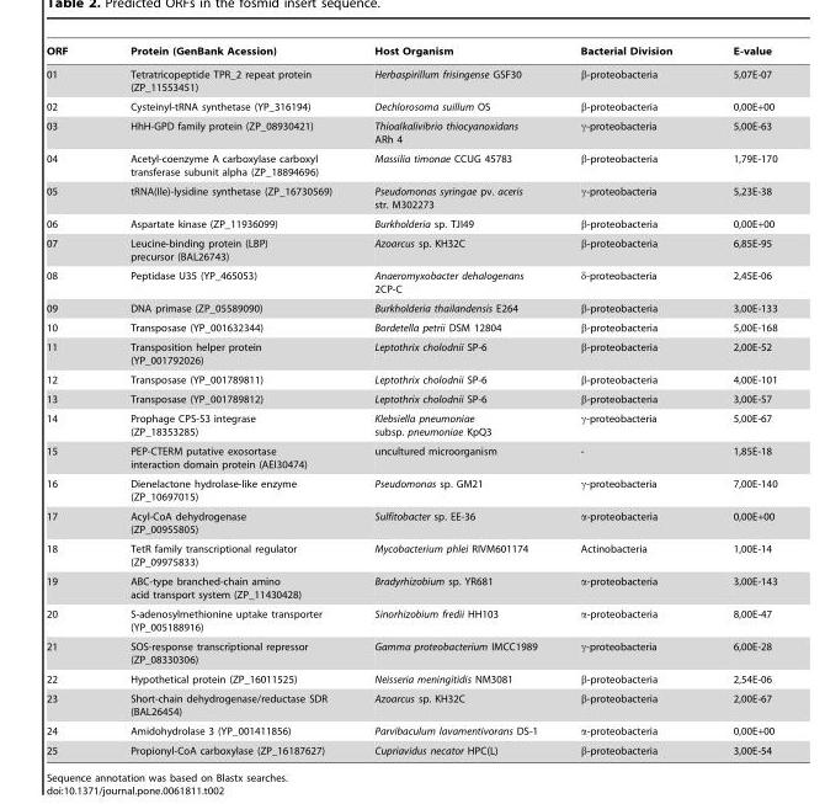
<table><thead><tr><td>ORF</td><td>Protein (GenBank Acession)</td><td>Host Organism</td><td>Bacterial Division</td><td>E-value</td></tr></thead><tbody><tr><td>01</td><td>Tetratricopeptide TPR_2 repeat protein (ZP_11553451)</td><td>Herbaspirillum frisingense GSF30</td><td>β-proteobacteria</td><td>5,07E-07</td></tr><tr><td>02</td><td>Cysteinyl-tRNA synthetase (YP_316194)</td><td>Dechlorosoma suillum OS</td><td>β-proteobacteria</td><td>0,00E+00</td></tr><tr><td>03</td><td>HhH-GPD family protein (ZP_08930421)</td><td>Thioalkalivibrio thiocyanoxidans ARh 4</td><td>γ-proteobacteria</td><td>5,00E-63</td></tr><tr><td>04</td><td>Acetyl-coenzyme A carboxylase carboxyl transferase subunit alpha (ZP_18894696)</td><td>Massilia timonae CCUG 45783</td><td>β-proteobacteria</td><td>1,79E-170</td></tr><tr><td>05</td><td>tRNA(Ile)-lysidine synthetase (ZP_16730569)</td><td>Pseudomonas syringae pv. aceris str. M302273</td><td>γ-proteobacteria</td><td>5,23E-38</td></tr><tr><td>06</td><td>Aspartate kinase (ZP_11936099)</td><td>Burkholderia sp. TJI49</td><td>β-proteobacteria</td><td>0,00E+00</td></tr><tr><td>07</td><td>Leucine-binding protein (LBP) precursor (BAL26743)</td><td>Azoarcus sp. KH32C</td><td>β-proteobacteria</td><td>6,85E-95</td></tr><tr><td>08</td><td>Peptidase U35 (YP_465053)</td><td>Anaeromyxobacter dehalogenans 2CP-C</td><td>δ-proteobacteria</td><td>2,45E-06</td></tr><tr><td>09</td><td>DNA primase (ZP_05589090)</td><td>Burkholderia thailandensis E264</td><td>β-proteobacteria</td><td>3,00E-133</td></tr><tr><td>10</td><td>Transposase (YP_001632344)</td><td>Bordetella petrii DSM 12804</td><td>β-proteobacteria</td><td>5,00E-168</td></tr><tr><td>11</td><td>Transposition helper protein (YP_001792026)</td><td>Leptothrix cholodnii SP-6</td><td>β-proteobacteria</td><td>2,00E-52</td></tr><tr><td>12</td><td>Transposase (YP_001789811)</td><td>Leptothrix cholodnii SP-6</td><td>β-proteobacteria</td><td>4,00E-101</td></tr><tr><td>13</td><td>Transposase (YP_001789812)</td><td>Leptothrix cholodnii SP-6</td><td>β-proteobacteria</td><td>3,00E-57</td></tr><tr><td>14</td><td>Prophage CPS-53 integrase (ZP_18353285)</td><td>Klebsiella pneumoniae subsp. pneumoniae KpQ3</td><td>γ-proteobacteria</td><td>5,00E-67</td></tr><tr><td>15</td><td>PEP-CTERM putative exosortase interaction domain protein (AEI30474)</td><td>uncultured microorganism</td><td>-</td><td>1,85E-18</td></tr><tr><td>16</td><td>Dienelactone hydrolase-like enzyme (ZP_10697015)</td><td>Pseudomonas sp. GM21</td><td>γ-proteobacteria</td><td>7,00E-140</td></tr><tr><td>17</td><td>Acyl-CoA dehydrogenase (ZP_00955805)</td><td>Sulfitobacter sp. EE-36</td><td>α-proteobacteria</td><td>0,00E+00</td></tr><tr><td>18</td><td>TetR family transcriptional regulator (ZP_09975833)</td><td>Mycobacterium phlei RIVM601174</td><td>Actinobacteria</td><td>1,00E-14</td></tr><tr><td>19</td><td>ABC-type branched-chain amino acid transport system (ZP_11430428)</td><td>Bradyrhizobium sp. YR681</td><td>α-proteobacteria</td><td>3,00E-143</td></tr><tr><td>20</td><td>S-adenosylmethionine uptake transporter (YP_005188916)</td><td>Sinorhizobium fredii HH103</td><td>α-proteobacteria</td><td>8,00E-47</td></tr><tr><td>21</td><td>SOS-response transcriptional repressor (ZP_08330306)</td><td>Gamma proteobacterium IMCC1989</td><td>γ-proteobacteria</td><td>6,00E-28</td></tr><tr><td>22</td><td>Hypothetical protein (ZP_16011525)</td><td>Neisseria meningitidis NM3081</td><td>β-proteobacteria</td><td>2,54E-06</td></tr><tr><td>23</td><td>Short-chain dehydrogenase/reductase SDR (BAL26454)</td><td>Azoarcus sp. KH32C</td><td>β-proteobacteria</td><td>2,00E-67</td></tr><tr><td>24</td><td>Amidohydrolase 3 (YP_001411856)</td><td>Parvibaculum lavamentivorans DS-1</td><td>α-proteobacteria</td><td>0,00E+00</td></tr><tr><td>25</td><td>Propionyl-CoA carboxylase (ZP_16187627)</td><td>Cupriavidus necator HPC(L)</td><td>β-proteobacteria</td><td>3,00E-54</td></tr></tbody></table>